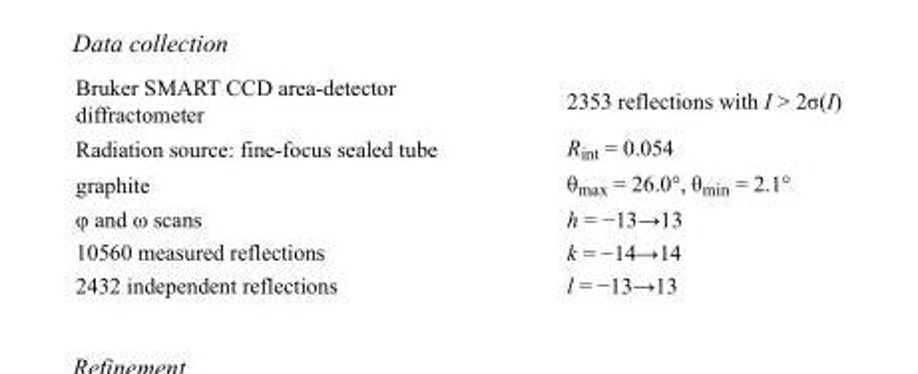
<table><tbody><tr><td>Bruker SMART CCD area-detector diffractometer</td><td>2353 reflections with I &gt; 2σ(I)</td></tr><tr><td>Radiation source: fine-focus sealed tube</td><td>R<sub>int</sub> = 0.054</td></tr><tr><td>graphite</td><td>θ<sub>max</sub> = 26.0°, θ<sub>min</sub> = 2.1°</td></tr><tr><td>φ and ω scans</td><td>h = −13→13</td></tr><tr><td>10560 measured reflections</td><td>k = −14→14</td></tr><tr><td>2432 independent reflections</td><td>l = −13→13</td></tr></tbody></table>